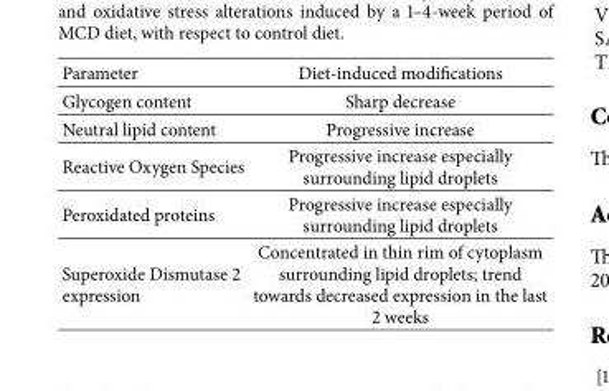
<table><thead><tr><td>Parameter</td><td>Diet-induced modifications</td></tr></thead><tbody><tr><td>Glycogen content</td><td>Sharp decrease</td></tr><tr><td>Neutral lipid content</td><td>Progressive increase</td></tr><tr><td>Reactive Oxygen Species</td><td>Progressive increase especially surrounding lipid droplets</td></tr><tr><td>Peroxidated proteins</td><td>Progressive increase especially surrounding lipid droplets</td></tr><tr><td>Superoxide Dismutase 2 expression</td><td>Concentrated in thin rim of cytoplasm surrounding lipid droplets; trend towards decreased expression in the last 2 weeks</td></tr></tbody></table>